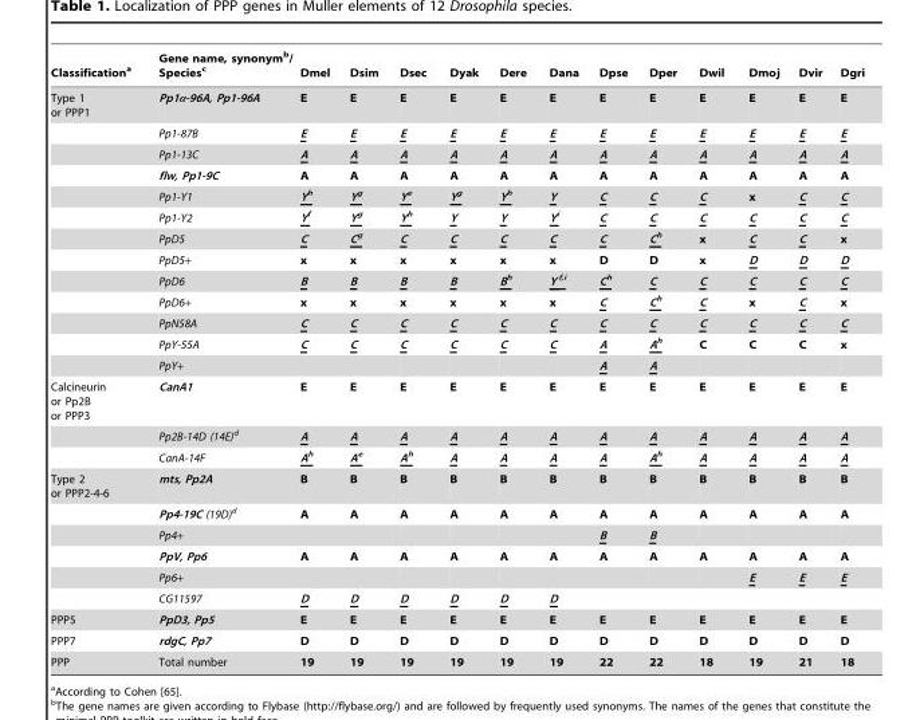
<table><thead><tr><td>Classification<sup>a</sup></td><td>Gene name, synonym<sup>b</sup>/ Species<sup>c</sup></td><td>Dmel</td><td>Dsim</td><td>Dsec</td><td>Dyak</td><td>Dere</td><td>Dana</td><td>Dpse</td><td>Dper</td><td>Dwil</td><td>Dmoj</td><td>Dvir</td><td>Dgri</td></tr></thead><tbody><tr><td rowspan="13">Type 1 or PPP1</td><td>Pp1α-96A, Pp1-96A</td><td>E</td><td>E</td><td>E</td><td>E</td><td>E</td><td>E</td><td>E</td><td>E</td><td>E</td><td>E</td><td>E</td><td>E</td></tr><tr><td>Pp1-87B</td><td>E</td><td>E</td><td>E</td><td>E</td><td>E</td><td>E</td><td>E</td><td>E</td><td>E</td><td>E</td><td>E</td><td>E</td></tr><tr><td>Pp1-13C</td><td>A</td><td>A</td><td>A</td><td>A</td><td>A</td><td>A</td><td>A</td><td>A</td><td>A</td><td>A</td><td>A</td><td>A</td></tr><tr><td>flw, Pp1-9C</td><td>A</td><td>A</td><td>A</td><td>A</td><td>A</td><td>A</td><td>A</td><td>A</td><td>A</td><td>A</td><td>A</td><td>A</td></tr><tr><td>Pp1-Y1</td><td>Yh</td><td>Yg</td><td>Ye</td><td>Yg</td><td>Yh</td><td>Y</td><td>C</td><td>C</td><td>C</td><td>x</td><td>C</td><td>C</td></tr><tr><td>Pp1-Y2</td><td>Yf</td><td>Yg</td><td>Yh</td><td>Y</td><td>Y</td><td>Yi</td><td>C</td><td>C</td><td>C</td><td>C</td><td>C</td><td>C</td></tr><tr><td>PpD5</td><td>C</td><td>Cg</td><td>C</td><td>C</td><td>C</td><td>C</td><td>C</td><td>Ch</td><td>x</td><td>C</td><td>C</td><td>x</td></tr><tr><td>PpD5+</td><td>x</td><td>x</td><td>x</td><td>x</td><td>x</td><td>x</td><td>D</td><td>D</td><td>x</td><td>D</td><td>D</td><td>D</td></tr><tr><td>PpD6</td><td>B</td><td>B</td><td>B</td><td>B</td><td>Bh</td><td>Y f<sup>,</sup>i</td><td>Ch</td><td>C</td><td>C</td><td>C</td><td>C</td><td>C</td></tr><tr><td>PpD6+</td><td>x</td><td>x</td><td>x</td><td>x</td><td>x</td><td>x</td><td>C</td><td>Ch</td><td>C</td><td>x</td><td>C</td><td>x</td></tr><tr><td>PpN58A</td><td>C</td><td>C</td><td>C</td><td>C</td><td>C</td><td>C</td><td>C</td><td>C</td><td>C</td><td>C</td><td>C</td><td>C</td></tr><tr><td>PpY-55A</td><td>C</td><td>C</td><td>C</td><td>C</td><td>C</td><td>C</td><td>A</td><td>Ah</td><td>C</td><td>C</td><td>C</td><td>x</td></tr><tr><td>PpY+</td><td></td><td></td><td></td><td></td><td></td><td></td><td>A</td><td>A</td><td></td><td></td><td></td><td></td></tr><tr><td rowspan="3">Calcineurin or Pp2B or PPP3</td><td>CanA1</td><td>E</td><td>E</td><td>E</td><td>E</td><td>E</td><td>E</td><td>E</td><td>E</td><td>E</td><td>E</td><td>E</td><td>E</td></tr><tr><td>Pp2B-14D (14E)d</td><td>A</td><td>A</td><td>A</td><td>A</td><td>A</td><td>A</td><td>A</td><td>A</td><td>A</td><td>A</td><td>A</td><td>A</td></tr><tr><td>CanA-14F</td><td>Ah</td><td>Ae</td><td>Ah</td><td>A</td><td>A</td><td>A</td><td>A</td><td>Ah</td><td>A</td><td>A</td><td>A</td><td>A</td></tr><tr><td rowspan="6">Type 2 or PPP2-4-6</td><td>mts, Pp2A</td><td>B</td><td>B</td><td>B</td><td>B</td><td>B</td><td>B</td><td>B</td><td>B</td><td>B</td><td>B</td><td>B</td><td>B</td></tr><tr><td>Pp4-19C (19D)d</td><td>A</td><td>A</td><td>A</td><td>A</td><td>A</td><td>A</td><td>A</td><td>A</td><td>A</td><td>A</td><td>A</td><td>A</td></tr><tr><td>Pp4+</td><td></td><td></td><td></td><td></td><td></td><td></td><td>B</td><td>B</td><td></td><td></td><td></td><td></td></tr><tr><td>PpV, Pp6</td><td>A</td><td>A</td><td>A</td><td>A</td><td>A</td><td>A</td><td>A</td><td>A</td><td>A</td><td>A</td><td>A</td><td>A</td></tr><tr><td>Pp6+</td><td></td><td></td><td></td><td></td><td></td><td></td><td></td><td></td><td></td><td>E</td><td>E</td><td>E</td></tr><tr><td>CG11597</td><td>D</td><td>D</td><td>D</td><td>D</td><td>D</td><td>D</td><td></td><td></td><td></td><td></td><td></td><td></td></tr><tr><td>PPP5</td><td>PpD3, Pp5</td><td>E</td><td>E</td><td>E</td><td>E</td><td>E</td><td>E</td><td>E</td><td>E</td><td>E</td><td>E</td><td>E</td><td>E</td></tr><tr><td>PPP7</td><td>rdgC, Pp7</td><td>D</td><td>D</td><td>D</td><td>D</td><td>D</td><td>D</td><td>D</td><td>D</td><td>D</td><td>D</td><td>D</td><td>D</td></tr><tr><td>PPP</td><td>Total number</td><td>19</td><td>19</td><td>19</td><td>19</td><td>19</td><td>19</td><td>22</td><td>22</td><td>18</td><td>19</td><td>21</td><td>18</td></tr></tbody></table>